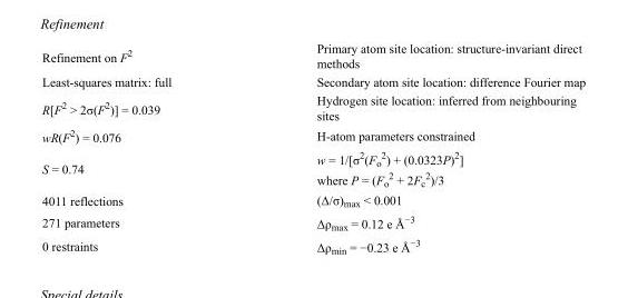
<table><tbody><tr><td>Refinement on F<sup>2</sup></td><td>Primary atom site location: structure-invariant direct methods</td></tr><tr><td>Least-squares matrix: full</td><td>Secondary atom site location: difference Fourier map</td></tr><tr><td>R[F<sup>2</sup> &gt; 2σ(F<sup>2</sup>)] = 0.039</td><td>Hydrogen site location: inferred from neighbouring sites</td></tr><tr><td>wR(F<sup>2</sup>) = 0.076</td><td>H-atom parameters constrained</td></tr><tr><td>S = 0.74</td><td>w = 1/[σ<sup>2</sup>(F<sub>o</sub> <sup>2</sup>) + (0.0323P)<sup>2</sup>] where P = (F<sub>o</sub> <sup>2</sup> + 2F<sub>c</sub> <sup>2</sup>)/3</td></tr><tr><td>4011 reflections</td><td>(Δ/σ)<sub>max</sub> &lt; 0.001</td></tr><tr><td>271 parameters</td><td>Δρ<sub>max</sub> = 0.12 e Å<sup>−3</sup></td></tr><tr><td>0 restraints</td><td>Δρ<sub>min</sub> = −0.23 e Å<sup>−3</sup></td></tr></tbody></table>